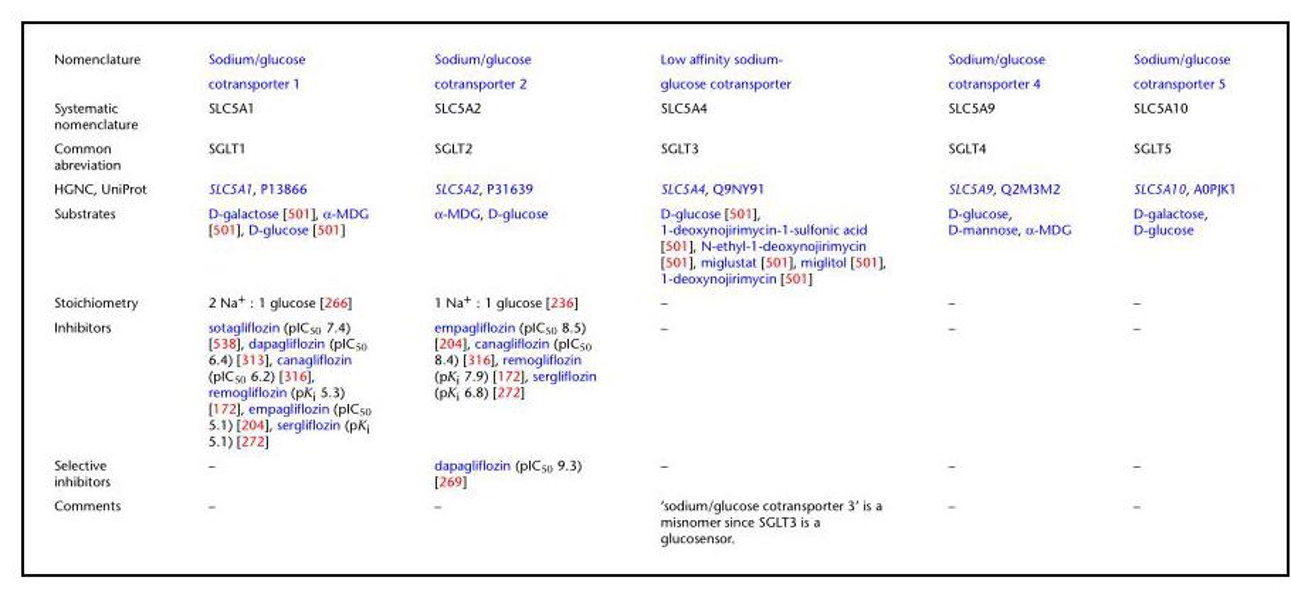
<table><tbody><tr><td rowspan="2">Nomenclature</td><td>Sodium/glucose</td><td>Sodium/glucose</td><td>Low affinity sodium-</td><td>Sodium/glucose</td><td>Sodium/glucose</td></tr><tr><td>cotransporter 1</td><td>cotransporter 2</td><td>glucose cotransporter</td><td>cotransporter 4</td><td>cotransporter 5</td></tr><tr><td>Systematic nomenclature</td><td>SLC5A1</td><td>SLC5A2</td><td>SLC5A4</td><td>SLC5A9</td><td>SLC5A10</td></tr><tr><td>Common abreviation</td><td>SGLT1</td><td>SGLT2</td><td>SGLT3</td><td>SGLT4</td><td>SGLT5</td></tr><tr><td>HGNC, UniProt</td><td>SLC5A1, P13866</td><td>SLC5A2, P31639</td><td>SLC5A4, Q9NY91</td><td>SLC5A9, Q2M3M2</td><td>SLC5A10, A0PJK1</td></tr><tr><td>Substrates</td><td>D-galactose [501], α-MDG [501], D-glucose [501]</td><td>α-MDG, D-glucose</td><td>D-glucose [501], 1-deoxynojirimycin-1-sulfonic acid [501], N-ethyl-1-deoxynojirimycin [501], miglustat [501], miglitol [501], 1-deoxynojirimycin [501]</td><td>D-glucose, D-mannose, α-MDG</td><td>D-galactose, D-glucose</td></tr><tr><td>Stoichiometry</td><td>2 Na<sup>+</sup> : 1 glucose [266]</td><td>1 Na<sup>+</sup> : 1 glucose [236]</td><td>–</td><td>–</td><td>–</td></tr><tr><td>Inhibitors</td><td>sotagliflozin (pIC<sub>50</sub> 7.4) [538], dapagliflozin (pIC<sub>50</sub> 6.4) [313], canagliflozin (pIC<sub>50</sub> 6.2) [316], remogliflozin (pK<sub>i</sub> 5.3) [172], empagliflozin (pIC<sub>50</sub> 5.1) [204], sergliflozin (pK<sub>i</sub> 5.1) [272]</td><td>empagliflozin (pIC<sub>50</sub> 8.5) [204], canagliflozin (pIC<sub>50</sub> 8.4) [316], remogliflozin (pK<sub>i</sub> 7.9) [172], sergliflozin (pK<sub>i</sub> 6.8) [272]</td><td>–</td><td>–</td><td>–</td></tr><tr><td>Selective inhibitors</td><td>–</td><td>dapagliflozin (pIC<sub>50</sub> 9.3) [269]</td><td>–</td><td>–</td><td>–</td></tr><tr><td>Comments</td><td>–</td><td>–</td><td>’sodium/glucose cotransporter 3’ is a misnomer since SGLT3 is a glucosensor.</td><td>–</td><td>–</td></tr></tbody></table>